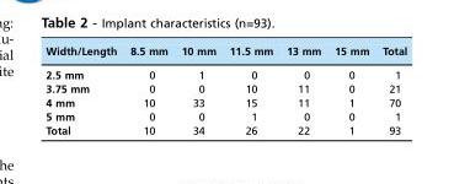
<table><thead><tr><td>Width/Length</td><td>8.5 mm</td><td>10 mm</td><td>11.5 mm</td><td>13 mm</td><td>15 mm</td><td>Total</td></tr></thead><tbody><tr><td>2.5 mm</td><td>0</td><td>1</td><td>0</td><td>0</td><td>0</td><td>1</td></tr><tr><td>3.75 mm</td><td>0</td><td>0</td><td>10</td><td>11</td><td>0</td><td>21</td></tr><tr><td>4 mm</td><td>10</td><td>33</td><td>15</td><td>11</td><td>1</td><td>70</td></tr><tr><td>5 mm</td><td>0</td><td>0</td><td>1</td><td>0</td><td>0</td><td>1</td></tr><tr><td>Total</td><td>10</td><td>34</td><td>26</td><td>22</td><td>1</td><td>93</td></tr></tbody></table>